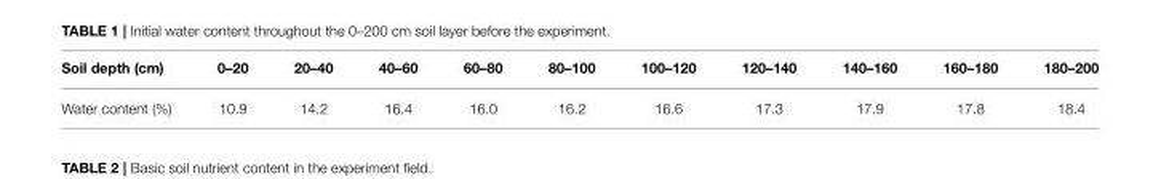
<table><thead><tr><td>Soil depth (cm)</td><td>0–20</td><td>20–40</td><td>40–60</td><td>60–80</td><td>80–100</td><td>100–120</td><td>120–140</td><td>140–160</td><td>160–180</td><td>180–200</td></tr></thead><tbody><tr><td>Water content (%)</td><td>10.9</td><td>14.2</td><td>16.4</td><td>16.0</td><td>16.2</td><td>16.6</td><td>17.3</td><td>17.9</td><td>17.8</td><td>18.4</td></tr></tbody></table>